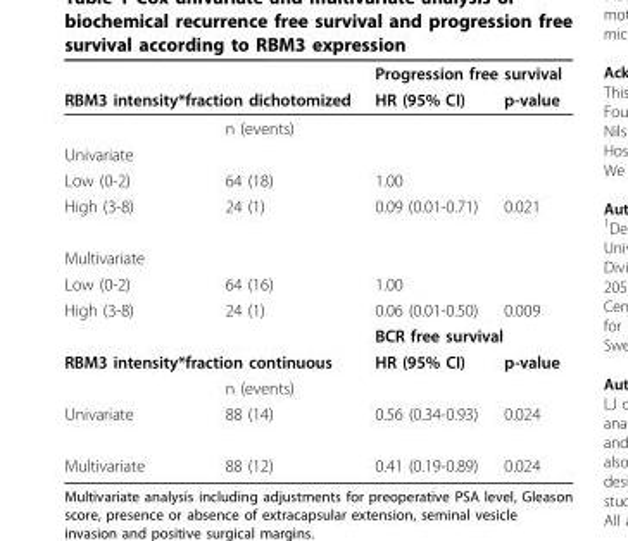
<table><thead><tr><td></td><td></td><td colspan="2">Progression free survival</td></tr><tr><td colspan="2">RBM3 intensity*fraction dichotomized</td><td>HR (95% CI)</td><td>p-value</td></tr></thead><tbody><tr><td></td><td>n (events)</td><td></td><td></td></tr><tr><td colspan="4">Univariate</td></tr><tr><td>Low (0-2)</td><td>64 (18)</td><td>1.00</td><td></td></tr><tr><td>High (3-8)</td><td>24 (1)</td><td>0.09 (0.01-0.71)</td><td>0.021</td></tr><tr><td colspan="4">Multivariate</td></tr><tr><td>Low (0-2)</td><td>64 (16)</td><td>1.00</td><td></td></tr><tr><td rowspan="2">High (3-8)</td><td>24 (1)</td><td>0.06 (0.01-0.50)</td><td>0.009</td></tr><tr><td></td><td colspan="2">BCR free survival</td></tr><tr><td colspan="2">RBM3 intensity*fraction continuous</td><td>HR (95% CI)</td><td>p-value</td></tr><tr><td></td><td>n (events)</td><td></td><td></td></tr><tr><td>Univariate</td><td>88 (14)</td><td>0.56 (0.34-0.93)</td><td>0.024</td></tr><tr><td>Multivariate</td><td>88 (12)</td><td>0.41 (0.19-0.89)</td><td>0.024</td></tr></tbody></table>